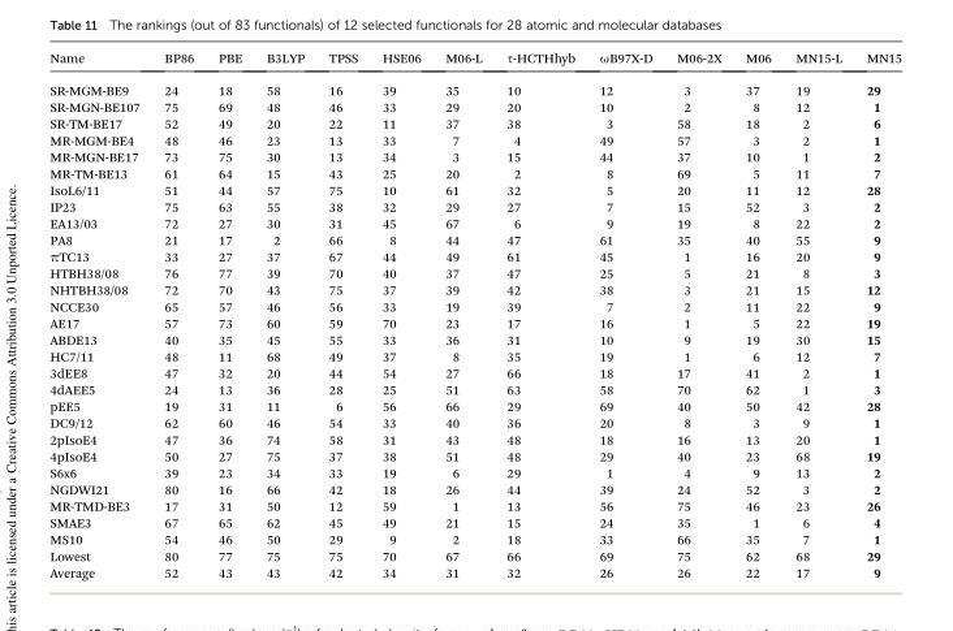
<table><thead><tr><td>Name</td><td>BP86</td><td>PBE</td><td>B3LYP</td><td>TPSS</td><td>HSE06</td><td>M06-L</td><td>τ-HCTHhyb</td><td>ωB97X-D</td><td>M06-2X</td><td>M06</td><td>MN15-L</td><td>MN15</td></tr></thead><tbody><tr><td>SR-MGM-BE9</td><td>24</td><td>18</td><td>58</td><td>16</td><td>39</td><td>35</td><td>10</td><td>12</td><td>3</td><td>37</td><td>19</td><td>29</td></tr><tr><td>SR-MGN-BE107</td><td>75</td><td>69</td><td>48</td><td>46</td><td>33</td><td>29</td><td>20</td><td>10</td><td>2</td><td>8</td><td>12</td><td>1</td></tr><tr><td>SR-TM-BE17</td><td>52</td><td>49</td><td>20</td><td>22</td><td>11</td><td>37</td><td>38</td><td>3</td><td>58</td><td>18</td><td>2</td><td>6</td></tr><tr><td>MR-MGM-BE4</td><td>48</td><td>46</td><td>23</td><td>13</td><td>33</td><td>7</td><td>4</td><td>49</td><td>57</td><td>3</td><td>2</td><td>1</td></tr><tr><td>MR-MGN-BE17</td><td>73</td><td>75</td><td>30</td><td>13</td><td>34</td><td>3</td><td>15</td><td>44</td><td>37</td><td>10</td><td>1</td><td>2</td></tr><tr><td>MR-TM-BE13</td><td>61</td><td>64</td><td>15</td><td>43</td><td>25</td><td>20</td><td>2</td><td>8</td><td>69</td><td>5</td><td>11</td><td>7</td></tr><tr><td>IsoL6/11</td><td>51</td><td>44</td><td>57</td><td>75</td><td>10</td><td>61</td><td>32</td><td>5</td><td>20</td><td>11</td><td>12</td><td>28</td></tr><tr><td>IP23</td><td>75</td><td>63</td><td>55</td><td>38</td><td>32</td><td>29</td><td>27</td><td>7</td><td>15</td><td>52</td><td>3</td><td>2</td></tr><tr><td>EA13/03</td><td>72</td><td>27</td><td>30</td><td>31</td><td>45</td><td>67</td><td>6</td><td>9</td><td>19</td><td>8</td><td>22</td><td>2</td></tr><tr><td>PA8</td><td>21</td><td>17</td><td>2</td><td>66</td><td>8</td><td>44</td><td>47</td><td>61</td><td>35</td><td>40</td><td>55</td><td>9</td></tr><tr><td>πTC13</td><td>33</td><td>27</td><td>37</td><td>67</td><td>44</td><td>49</td><td>61</td><td>45</td><td>1</td><td>16</td><td>20</td><td>9</td></tr><tr><td>HTBH38/08</td><td>76</td><td>77</td><td>39</td><td>70</td><td>40</td><td>37</td><td>47</td><td>25</td><td>5</td><td>21</td><td>8</td><td>3</td></tr><tr><td>NHTBH38/08</td><td>72</td><td>70</td><td>43</td><td>75</td><td>37</td><td>39</td><td>42</td><td>38</td><td>3</td><td>21</td><td>15</td><td>12</td></tr><tr><td>NCCE30</td><td>65</td><td>57</td><td>46</td><td>56</td><td>33</td><td>19</td><td>39</td><td>7</td><td>2</td><td>11</td><td>22</td><td>9</td></tr><tr><td>AE17</td><td>57</td><td>73</td><td>60</td><td>59</td><td>70</td><td>23</td><td>17</td><td>16</td><td>1</td><td>5</td><td>22</td><td>19</td></tr><tr><td>ABDE13</td><td>40</td><td>35</td><td>45</td><td>55</td><td>33</td><td>36</td><td>31</td><td>10</td><td>9</td><td>19</td><td>30</td><td>15</td></tr><tr><td>HC7/11</td><td>48</td><td>11</td><td>68</td><td>49</td><td>37</td><td>8</td><td>35</td><td>19</td><td>1</td><td>6</td><td>12</td><td>7</td></tr><tr><td>3dEE8</td><td>47</td><td>32</td><td>20</td><td>44</td><td>54</td><td>27</td><td>66</td><td>18</td><td>17</td><td>41</td><td>2</td><td>1</td></tr><tr><td>4dAEE5</td><td>24</td><td>13</td><td>36</td><td>28</td><td>25</td><td>51</td><td>63</td><td>58</td><td>70</td><td>62</td><td>1</td><td>3</td></tr><tr><td>pEE5</td><td>19</td><td>31</td><td>11</td><td>6</td><td>56</td><td>66</td><td>29</td><td>69</td><td>40</td><td>50</td><td>42</td><td>28</td></tr><tr><td>DC9/12</td><td>62</td><td>60</td><td>46</td><td>54</td><td>33</td><td>40</td><td>36</td><td>20</td><td>8</td><td>3</td><td>9</td><td>1</td></tr><tr><td>2pIsoE4</td><td>47</td><td>36</td><td>74</td><td>58</td><td>31</td><td>43</td><td>48</td><td>18</td><td>16</td><td>13</td><td>20</td><td>1</td></tr><tr><td>4pIsoE4</td><td>50</td><td>27</td><td>75</td><td>37</td><td>38</td><td>51</td><td>48</td><td>29</td><td>40</td><td>23</td><td>68</td><td>19</td></tr><tr><td>S6x6</td><td>39</td><td>23</td><td>34</td><td>33</td><td>19</td><td>6</td><td>29</td><td>1</td><td>4</td><td>9</td><td>13</td><td>2</td></tr><tr><td>NGDWI21</td><td>80</td><td>16</td><td>66</td><td>42</td><td>18</td><td>26</td><td>44</td><td>39</td><td>24</td><td>52</td><td>3</td><td>2</td></tr><tr><td>MR-TMD-BE3</td><td>17</td><td>31</td><td>50</td><td>12</td><td>59</td><td>1</td><td>13</td><td>56</td><td>75</td><td>46</td><td>23</td><td>26</td></tr><tr><td>SMAE3</td><td>67</td><td>65</td><td>62</td><td>45</td><td>49</td><td>21</td><td>15</td><td>24</td><td>35</td><td>1</td><td>6</td><td>4</td></tr><tr><td>MS10</td><td>54</td><td>46</td><td>50</td><td>29</td><td>9</td><td>2</td><td>18</td><td>33</td><td>66</td><td>35</td><td>7</td><td>1</td></tr><tr><td>Lowest</td><td>80</td><td>77</td><td>75</td><td>75</td><td>70</td><td>67</td><td>66</td><td>69</td><td>75</td><td>62</td><td>68</td><td>29</td></tr><tr><td>Average</td><td>52</td><td>43</td><td>43</td><td>42</td><td>34</td><td>31</td><td>32</td><td>26</td><td>26</td><td>22</td><td>17</td><td>9</td></tr></tbody></table>